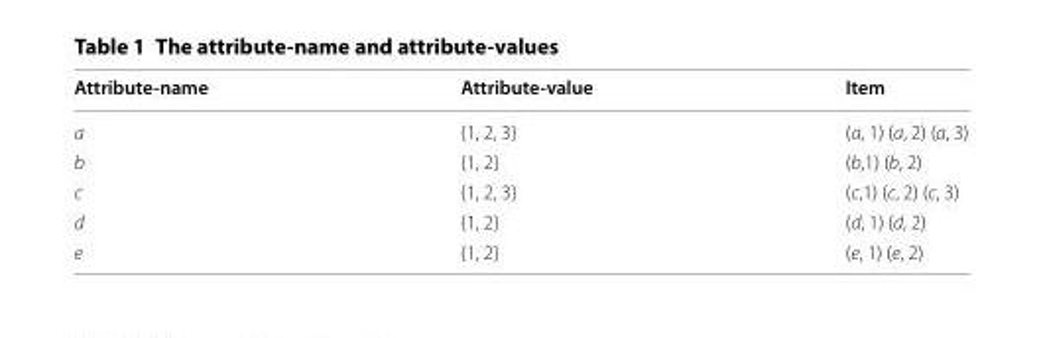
<table><thead><tr><td>Attribute-name</td><td>Attribute-value</td><td>Item</td></tr></thead><tbody><tr><td>a</td><td>{1, 2, 3}</td><td>(a, 1) (a, 2) (a, 3)</td></tr><tr><td>b</td><td>{1, 2}</td><td>(b,1) (b, 2)</td></tr><tr><td>c</td><td>{1, 2, 3}</td><td>(c,1) (c, 2) (c, 3)</td></tr><tr><td>d</td><td>{1, 2}</td><td>(d, 1) (d, 2)</td></tr><tr><td>e</td><td>{1, 2}</td><td>(e, 1) (e, 2)</td></tr></tbody></table>